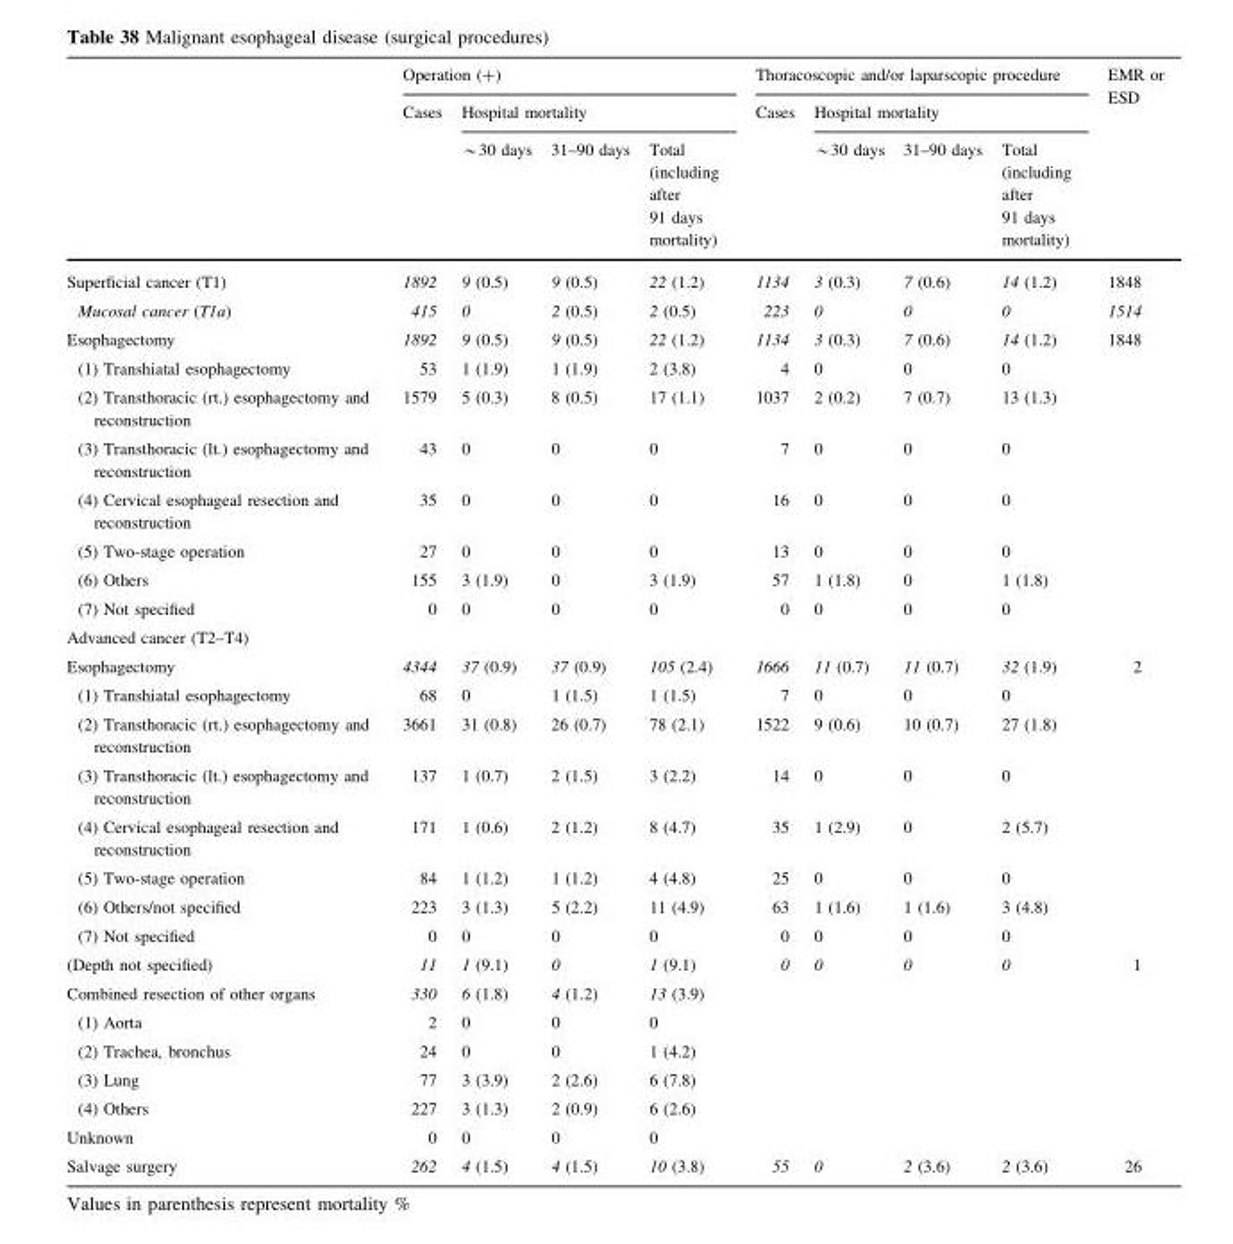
<table><thead><tr><td rowspan="3"></td><td colspan="4">Operation (+)</td><td colspan="4">Thoracoscopic and/or laparscopic procedure</td><td rowspan="3">EMR or ESD</td></tr><tr><td rowspan="2">Cases</td><td colspan="3">Hospital mortality</td><td rowspan="2">Cases</td><td colspan="3">Hospital mortality</td></tr><tr><td>*30 days</td><td>31–90 days</td><td>Total (including after 91 days mortality)</td><td>*30 days</td><td>31–90 days</td><td>Total (including after 91 days mortality)</td></tr></thead><tbody><tr><td>Superficial cancer (T1)</td><td>1892</td><td>9 (0.5)</td><td>9 (0.5)</td><td>22 (1.2)</td><td>1134</td><td>3 (0.3)</td><td>7 (0.6)</td><td>14 (1.2)</td><td>1848</td></tr><tr><td>Mucosal cancer (T1a)</td><td>415</td><td>0</td><td>2 (0.5)</td><td>2 (0.5)</td><td>223</td><td>0</td><td>0</td><td>0</td><td>1514</td></tr><tr><td>Esophagectomy</td><td>1892</td><td>9 (0.5)</td><td>9 (0.5)</td><td>22 (1.2)</td><td>1134</td><td>3 (0.3)</td><td>7 (0.6)</td><td>14 (1.2)</td><td>1848</td></tr><tr><td>(1) Transhiatal esophagectomy</td><td>53</td><td>1 (1.9)</td><td>1 (1.9)</td><td>2 (3.8)</td><td>4</td><td>0</td><td>0</td><td>0</td><td></td></tr><tr><td>(2) Transthoracic (rt.) esophagectomy and reconstruction</td><td>1579</td><td>5 (0.3)</td><td>8 (0.5)</td><td>17 (1.1)</td><td>1037</td><td>2 (0.2)</td><td>7 (0.7)</td><td>13 (1.3)</td><td></td></tr><tr><td>(3) Transthoracic (lt.) esophagectomy and reconstruction</td><td>43</td><td>0</td><td>0</td><td>0</td><td>7</td><td>0</td><td>0</td><td>0</td><td></td></tr><tr><td>(4) Cervical esophageal resection and reconstruction</td><td>35</td><td>0</td><td>0</td><td>0</td><td>16</td><td>0</td><td>0</td><td>0</td><td></td></tr><tr><td>(5) Two-stage operation</td><td>27</td><td>0</td><td>0</td><td>0</td><td>13</td><td>0</td><td>0</td><td>0</td><td></td></tr><tr><td>(6) Others</td><td>155</td><td>3 (1.9)</td><td>0</td><td>3 (1.9)</td><td>57</td><td>1 (1.8)</td><td>0</td><td>1 (1.8)</td><td></td></tr><tr><td>(7) Not specified</td><td>0</td><td>0</td><td>0</td><td>0</td><td>0</td><td>0</td><td>0</td><td>0</td><td></td></tr><tr><td colspan="10">Advanced cancer (T2–T4)</td></tr><tr><td>Esophagectomy</td><td>4344</td><td>37 (0.9)</td><td>37 (0.9)</td><td>105 (2.4)</td><td>1666</td><td>11 (0.7)</td><td>11 (0.7)</td><td>32 (1.9)</td><td>2</td></tr><tr><td>(1) Transhiatal esophagectomy</td><td>68</td><td>0</td><td>1 (1.5)</td><td>1 (1.5)</td><td>7</td><td>0</td><td>0</td><td>0</td><td></td></tr><tr><td>(2) Transthoracic (rt.) esophagectomy and reconstruction</td><td>3661</td><td>31 (0.8)</td><td>26 (0.7)</td><td>78 (2.1)</td><td>1522</td><td>9 (0.6)</td><td>10 (0.7)</td><td>27 (1.8)</td><td></td></tr><tr><td>(3) Transthoracic (lt.) esophagectomy and reconstruction</td><td>137</td><td>1 (0.7)</td><td>2 (1.5)</td><td>3 (2.2)</td><td>14</td><td>0</td><td>0</td><td>0</td><td></td></tr><tr><td>(4) Cervical esophageal resection and reconstruction</td><td>171</td><td>1 (0.6)</td><td>2 (1.2)</td><td>8 (4.7)</td><td>35</td><td>1 (2.9)</td><td>0</td><td>2 (5.7)</td><td></td></tr><tr><td>(5) Two-stage operation</td><td>84</td><td>1 (1.2)</td><td>1 (1.2)</td><td>4 (4.8)</td><td>25</td><td>0</td><td>0</td><td>0</td><td></td></tr><tr><td>(6) Others/not specified</td><td>223</td><td>3 (1.3)</td><td>5 (2.2)</td><td>11 (4.9)</td><td>63</td><td>1 (1.6)</td><td>1 (1.6)</td><td>3 (4.8)</td><td></td></tr><tr><td>(7) Not specified</td><td>0</td><td>0</td><td>0</td><td>0</td><td>0</td><td>0</td><td>0</td><td>0</td><td></td></tr><tr><td>(Depth not specified)</td><td>11</td><td>1 (9.1)</td><td>0</td><td>1 (9.1)</td><td>0</td><td>0</td><td>0</td><td>0</td><td>1</td></tr><tr><td>Combined resection of other organs</td><td>330</td><td>6 (1.8)</td><td>4 (1.2)</td><td>13 (3.9)</td><td></td><td></td><td></td><td></td><td></td></tr><tr><td>(1) Aorta</td><td>2</td><td>0</td><td>0</td><td>0</td><td></td><td></td><td></td><td></td><td></td></tr><tr><td>(2) Trachea, bronchus</td><td>24</td><td>0</td><td>0</td><td>1 (4.2)</td><td></td><td></td><td></td><td></td><td></td></tr><tr><td>(3) Lung</td><td>77</td><td>3 (3.9)</td><td>2 (2.6)</td><td>6 (7.8)</td><td></td><td></td><td></td><td></td><td></td></tr><tr><td>(4) Others</td><td>227</td><td>3 (1.3)</td><td>2 (0.9)</td><td>6 (2.6)</td><td></td><td></td><td></td><td></td><td></td></tr><tr><td>Unknown</td><td>0</td><td>0</td><td>0</td><td>0</td><td></td><td></td><td></td><td></td><td></td></tr><tr><td>Salvage surgery</td><td>262</td><td>4 (1.5)</td><td>4 (1.5)</td><td>10 (3.8)</td><td>55</td><td>0</td><td>2 (3.6)</td><td>2 (3.6)</td><td>26</td></tr></tbody></table>